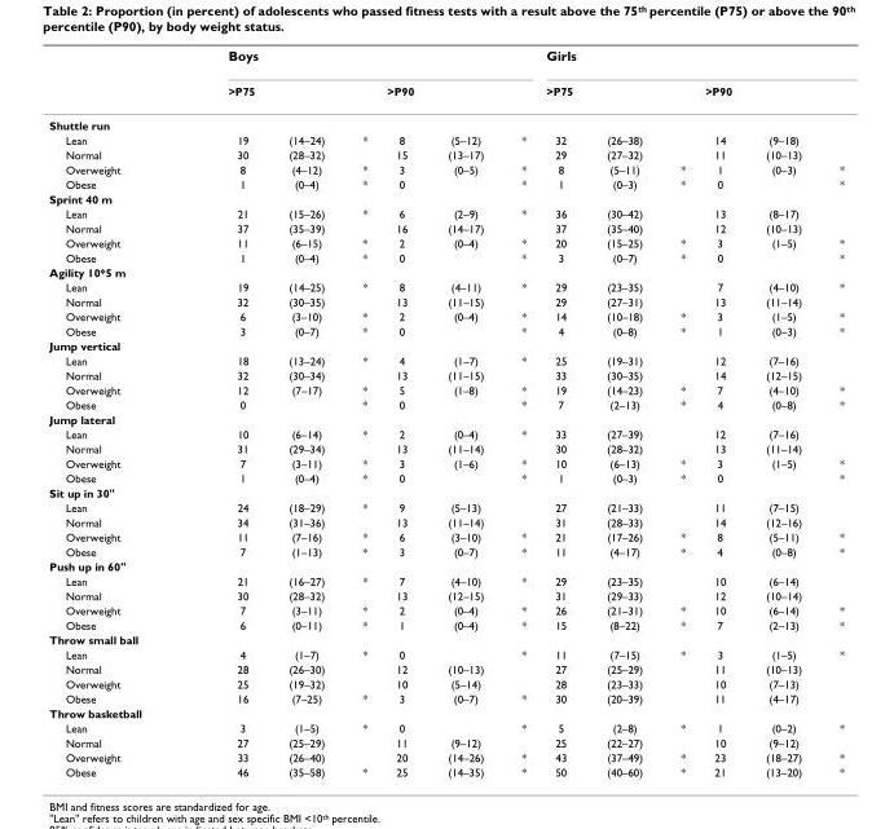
<table><thead><tr><td rowspan="3">Shuttle run</td><td colspan="6">Boys</td><td colspan="6">Girls</td></tr><tr><td colspan="3">&gt;P75</td><td colspan="3">&gt;P90</td><td colspan="3">&gt;P75</td><td colspan="3">&gt;P90</td></tr><tr><td></td><td></td><td></td><td></td><td></td><td></td><td></td><td></td><td></td><td></td><td></td><td></td></tr></thead><tbody><tr><td>Lean</td><td>19</td><td>(14–24)</td><td>*</td><td>8</td><td>(5–12)</td><td>*</td><td>32</td><td>(26–38)</td><td></td><td>14</td><td>(9–18)</td><td></td></tr><tr><td>Normal</td><td>30</td><td>(28–32)</td><td></td><td>15</td><td>(13–17)</td><td></td><td>29</td><td>(27–32)</td><td></td><td>11</td><td>(10–13)</td><td></td></tr><tr><td>Overweight</td><td>8</td><td>(4–12)</td><td>*</td><td>3</td><td>(0–5)</td><td>*</td><td>8</td><td>(5–11)</td><td>*</td><td>1</td><td>(0–3)</td><td>*</td></tr><tr><td>Obese</td><td>1</td><td>(0–4)</td><td>*</td><td>0</td><td></td><td>*</td><td>1</td><td>(0–3)</td><td>*</td><td>0</td><td></td><td>*</td></tr><tr><td colspan="13">Sprint 40 m</td></tr><tr><td>Lean</td><td>21</td><td>(15–26)</td><td>*</td><td>6</td><td>(2–9)</td><td>*</td><td>36</td><td>(30–42)</td><td></td><td>13</td><td>(8–17)</td><td></td></tr><tr><td>Normal</td><td>37</td><td>(35–39)</td><td></td><td>16</td><td>(14–17)</td><td></td><td>37</td><td>(35–40)</td><td></td><td>12</td><td>(10–13)</td><td></td></tr><tr><td>Overweight</td><td>11</td><td>(6–15)</td><td>*</td><td>2</td><td>(0–4)</td><td>*</td><td>20</td><td>(15–25)</td><td>*</td><td>3</td><td>(1–5)</td><td>*</td></tr><tr><td>Obese</td><td>1</td><td>(0–4)</td><td>*</td><td>0</td><td></td><td>*</td><td>3</td><td>(0–7)</td><td>*</td><td>0</td><td></td><td>*</td></tr><tr><td colspan="13">Agility 10*5 m</td></tr><tr><td>Lean</td><td>19</td><td>(14–25)</td><td>*</td><td>8</td><td>(4–11)</td><td>*</td><td>29</td><td>(23–35)</td><td></td><td>7</td><td>(4–10)</td><td>*</td></tr><tr><td>Normal</td><td>32</td><td>(30–35)</td><td></td><td>13</td><td>(11–15)</td><td></td><td>29</td><td>(27–31)</td><td></td><td>13</td><td>(11–14)</td><td></td></tr><tr><td>Overweight</td><td>6</td><td>(3–10)</td><td>*</td><td>2</td><td>(0–4)</td><td>*</td><td>14</td><td>(10–18)</td><td>*</td><td>3</td><td>(1–5)</td><td>*</td></tr><tr><td>Obese</td><td>3</td><td>(0–7)</td><td>*</td><td>0</td><td></td><td>*</td><td>4</td><td>(0–8)</td><td>*</td><td>1</td><td>(0–3)</td><td>*</td></tr><tr><td colspan="13">Jump vertical</td></tr><tr><td>Lean</td><td>18</td><td>(13–24)</td><td>*</td><td>4</td><td>(1–7)</td><td>*</td><td>25</td><td>(19–31)</td><td></td><td>12</td><td>(7–16)</td><td></td></tr><tr><td>Normal</td><td>32</td><td>(30–34)</td><td></td><td>13</td><td>(11–15)</td><td></td><td>33</td><td>(30–35)</td><td></td><td>14</td><td>(12–15)</td><td></td></tr><tr><td>Overweight</td><td>12</td><td>(7–17)</td><td>*</td><td>5</td><td>(1–8)</td><td>*</td><td>19</td><td>(14–23)</td><td>*</td><td>7</td><td>(4–10)</td><td>*</td></tr><tr><td>Obese</td><td>0</td><td></td><td>*</td><td>0</td><td></td><td>*</td><td>7</td><td>(2–13)</td><td>*</td><td>4</td><td>(0–8)</td><td>*</td></tr><tr><td colspan="13">Jump lateral</td></tr><tr><td>Lean</td><td>10</td><td>(6–14)</td><td>*</td><td>2</td><td>(0–4)</td><td>*</td><td>33</td><td>(27–39)</td><td></td><td>12</td><td>(7–16)</td><td></td></tr><tr><td>Normal</td><td>31</td><td>(29–34)</td><td></td><td>13</td><td>(11–14)</td><td></td><td>30</td><td>(28–32)</td><td></td><td>13</td><td>(11–14)</td><td></td></tr><tr><td>Overweight</td><td>7</td><td>(3–11)</td><td>*</td><td>3</td><td>(1–6)</td><td>*</td><td>10</td><td>(6–13)</td><td>*</td><td>3</td><td>(1–5)</td><td>*</td></tr><tr><td>Obese</td><td>1</td><td>(0–4)</td><td>*</td><td>0</td><td></td><td>*</td><td>1</td><td>(0–3)</td><td>*</td><td>0</td><td></td><td>*</td></tr><tr><td colspan="13">Sit up in 30&quot;</td></tr><tr><td>Lean</td><td>24</td><td>(18–29)</td><td>*</td><td>9</td><td>(5–13)</td><td></td><td>27</td><td>(21–33)</td><td></td><td>11</td><td>(7–15)</td><td></td></tr><tr><td>Normal</td><td>34</td><td>(31–36)</td><td></td><td>13</td><td>(11–14)</td><td></td><td>31</td><td>(28–33)</td><td></td><td>14</td><td>(12–16)</td><td></td></tr><tr><td>Overweight</td><td>11</td><td>(7–16)</td><td>*</td><td>6</td><td>(3–10)</td><td>*</td><td>21</td><td>(17–26)</td><td>*</td><td>8</td><td>(5–11)</td><td>*</td></tr><tr><td>Obese</td><td>7</td><td>(1–13)</td><td>*</td><td>3</td><td>(0–7)</td><td>*</td><td>11</td><td>(4–17)</td><td>*</td><td>4</td><td>(0–8)</td><td>*</td></tr><tr><td colspan="13">Push up in 60&quot;</td></tr><tr><td>Lean</td><td>21</td><td>(16–27)</td><td>*</td><td>7</td><td>(4–10)</td><td>*</td><td>29</td><td>(23–35)</td><td></td><td>10</td><td>(6–14)</td><td></td></tr><tr><td>Normal</td><td>30</td><td>(28–32)</td><td></td><td>13</td><td>(12–15)</td><td></td><td>31</td><td>(29–33)</td><td></td><td>12</td><td>(10–14)</td><td></td></tr><tr><td>Overweight</td><td>7</td><td>(3–11)</td><td>*</td><td>2</td><td>(0–4)</td><td>*</td><td>26</td><td>(21–31)</td><td>*</td><td>10</td><td>(6–14)</td><td>*</td></tr><tr><td>Obese</td><td>6</td><td>(0–11)</td><td>*</td><td>1</td><td>(0–4)</td><td>*</td><td>15</td><td>(8–22)</td><td>*</td><td>7</td><td>(2–13)</td><td>*</td></tr><tr><td colspan="13">Throw small ball</td></tr><tr><td>Lean</td><td>4</td><td>(1–7)</td><td>*</td><td>0</td><td></td><td>*</td><td>11</td><td>(7–15)</td><td>*</td><td>3</td><td>(1–5)</td><td>*</td></tr><tr><td>Normal</td><td>28</td><td>(26–30)</td><td></td><td>12</td><td>(10–13)</td><td></td><td>27</td><td>(25–29)</td><td></td><td>11</td><td>(10–13)</td><td></td></tr><tr><td>Overweight</td><td>25</td><td>(19–32)</td><td></td><td>10</td><td>(5–14)</td><td></td><td>28</td><td>(23–33)</td><td></td><td>10</td><td>(7–13)</td><td></td></tr><tr><td>Obese</td><td>16</td><td>(7–25)</td><td>*</td><td>3</td><td>(0–7)</td><td>*</td><td>30</td><td>(20–39)</td><td></td><td>11</td><td>(4–17)</td><td></td></tr><tr><td colspan="13">Throw basketball</td></tr><tr><td>Lean</td><td>3</td><td>(1–5)</td><td>*</td><td>0</td><td></td><td>*</td><td>5</td><td>(2–8)</td><td>*</td><td>1</td><td>(0–2)</td><td>*</td></tr><tr><td>Normal</td><td>27</td><td>(25–29)</td><td></td><td>11</td><td>(9–12)</td><td></td><td>25</td><td>(22–27)</td><td></td><td>10</td><td>(9–12)</td><td></td></tr><tr><td>Overweight</td><td>33</td><td>(26–40)</td><td></td><td>20</td><td>(14–26)</td><td>*</td><td>43</td><td>(37–49)</td><td>*</td><td>23</td><td>(18–27)</td><td>*</td></tr><tr><td>Obese</td><td>46</td><td>(35–58)</td><td>*</td><td>25</td><td>(14–35)</td><td>*</td><td>50</td><td>(40–60)</td><td>*</td><td>21</td><td>(13–20)</td><td>*</td></tr></tbody></table>